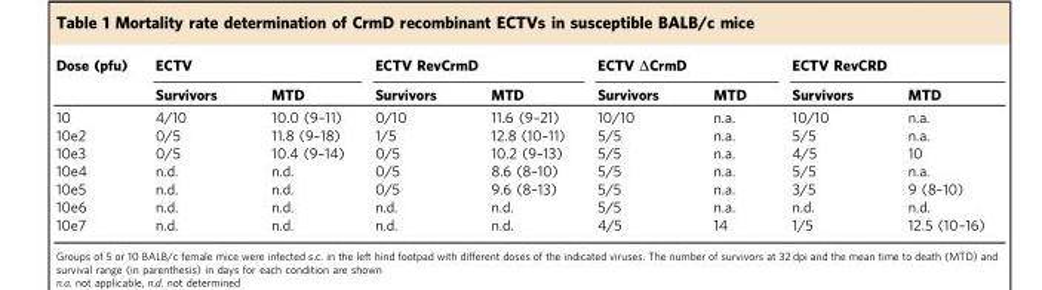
<table><thead><tr><td rowspan="2">Dose (pfu)</td><td colspan="2">ECTV</td><td colspan="2">ECTV RevCrmD</td><td colspan="2">ECTV ΔCrmD</td><td colspan="2">ECTV RevCRD</td></tr><tr><td>Survivors</td><td>MTD</td><td>Survivors</td><td>MTD</td><td>Survivors</td><td>MTD</td><td>Survivors</td><td>MTD</td></tr></thead><tbody><tr><td>10</td><td>4/10</td><td>10.0 (9–11)</td><td>0/10</td><td>11.6 (9–21)</td><td>10/10</td><td>n.a.</td><td>10/10</td><td>n.a.</td></tr><tr><td>10e2</td><td>0/5</td><td>11.8 (9–18)</td><td>1/5</td><td>12.8 (10–11)</td><td>5/5</td><td>n.a.</td><td>5/5</td><td>n.a.</td></tr><tr><td>10e3</td><td>0/5</td><td>10.4 (9–14)</td><td>0/5</td><td>10.2 (9–13)</td><td>5/5</td><td>n.a.</td><td>4/5</td><td>10</td></tr><tr><td>10e4</td><td>n.d.</td><td>n.d.</td><td>0/5</td><td>8.6 (8–10)</td><td>5/5</td><td>n.a.</td><td>5/5</td><td>n.a.</td></tr><tr><td>10e5</td><td>n.d.</td><td>n.d.</td><td>0/5</td><td>9.6 (8–13)</td><td>5/5</td><td>n.a.</td><td>3/5</td><td>9 (8–10)</td></tr><tr><td>10e6</td><td>n.d.</td><td>n.d.</td><td>n.d.</td><td>n.d.</td><td>5/5</td><td>n.a.</td><td>n.d.</td><td>n.d.</td></tr><tr><td>10e7</td><td>n.d.</td><td>n.d.</td><td>n.d.</td><td>n.d.</td><td>4/5</td><td>14</td><td>1/5</td><td>12.5 (10–16)</td></tr></tbody></table>